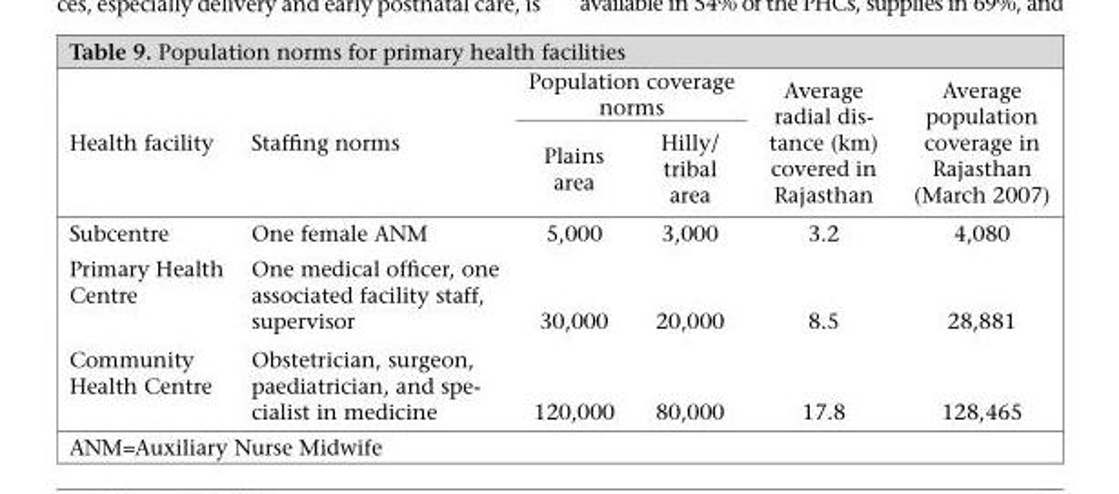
<table><thead><tr><td rowspan="2">Health facility</td><td rowspan="2">Staffing norms</td><td colspan="2">Population coverage norms</td><td rowspan="2">Average radial dis- tance (km) covered in Rajasthan</td><td rowspan="2">Average population coverage in Rajasthan (March 2007)</td></tr><tr><td>Plains area</td><td>Hilly/ tribal area</td></tr></thead><tbody><tr><td>Subcentre</td><td>One female ANM</td><td>5,000</td><td>3,000</td><td>3.2</td><td>4,080</td></tr><tr><td>Primary Health Centre</td><td>One medical officer, one associated facility staff, supervisor</td><td>30,000</td><td>20,000</td><td>8.5</td><td>28,881</td></tr><tr><td>Community Health Centre</td><td>Obstetrician, surgeon, paediatrician, and spe- cialist in medicine</td><td>120,000</td><td>80,000</td><td>17.8</td><td>128,465</td></tr></tbody></table>